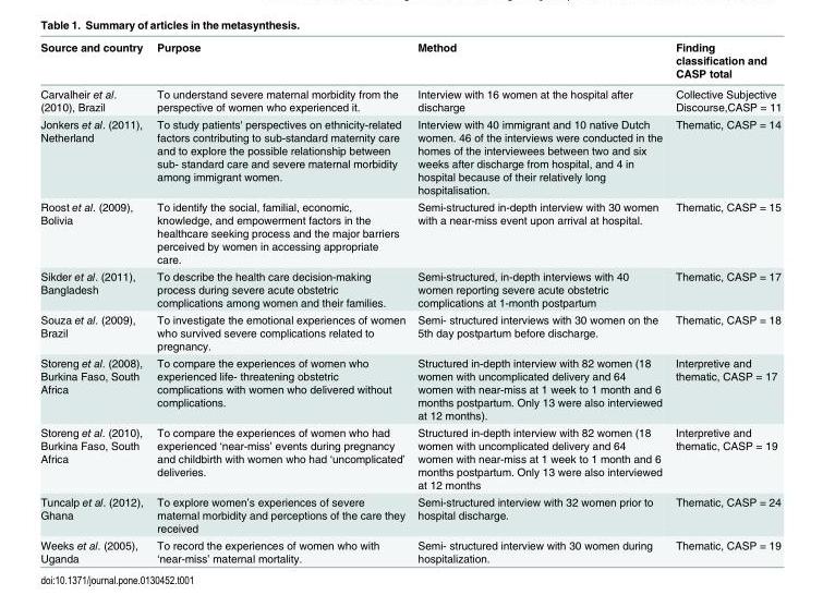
<table><thead><tr><td>Source and country</td><td>Purpose</td><td>Method</td><td>Finding classification and CASP total</td></tr></thead><tbody><tr><td>Carvalheir et al. (2010), Brazil</td><td>To understand severe maternal morbidity from the perspective of women who experienced it.</td><td>Interview with 16 women at the hospital after discharge</td><td>Collective Subjective Discourse,CASP = 11</td></tr><tr><td>Jonkers et al. (2011), Netherland</td><td>To study patients&#x27; perspectives on ethnicity-related factors contributing to sub-standard maternity care and to explore the possible relationship between sub- standard care and severe maternal morbidity among immigrant women.</td><td>Interview with 40 immigrant and 10 native Dutch women. 46 of the interviews were conducted in the homes of the interviewees between two and six weeks after discharge from hospital, and 4 in hospital because of their relatively long hospitalisation.</td><td>Thematic, CASP = 14</td></tr><tr><td>Roost et al. (2009), Bolivia</td><td>To identify the social, familial, economic, knowledge, and empowerment factors in the healthcare seeking process and the major barriers perceived by women in accessing appropriate care.</td><td>Semi-structured in-depth interview with 30 women with a near-miss event upon arrival at hospital.</td><td>Thematic, CASP = 15</td></tr><tr><td>Sikder et al. (2011), Bangladesh</td><td>To describe the health care decision-making process during severe acute obstetric complications among women and their families.</td><td>Semi-structured, in-depth interviews with 40 women reporting severe acute obstetric complications at 1-month postpartum</td><td>Thematic, CASP = 17</td></tr><tr><td>Souza et al. (2009), Brazil</td><td>To investigate the emotional experiences of women who survived severe complications related to pregnancy.</td><td>Semi- structured interviews with 30 women on the 5th day postpartum before discharge.</td><td>Thematic, CASP = 18</td></tr><tr><td>Storeng et al. (2008), Burkina Faso, South Africa</td><td>To compare the experiences of women who experienced life- threatening obstetric complications with women who delivered without complications.</td><td>Structured in-depth interview with 82 women (18 women with uncomplicated delivery and 64 women with near-miss at 1 week to 1 month and 6 months postpartum. Only 13 were also interviewed at 12 months).</td><td>Interpretive and thematic, CASP = 17</td></tr><tr><td>Storeng et al. (2010), Burkina Faso, South Africa</td><td>To compare the experiences of women who had experienced ‘near-miss’ events during pregnancy and childbirth with women who had ‘uncomplicated’ deliveries.</td><td>Structured in-depth interview with 82 women (18 women with uncomplicated delivery and 64 women with near-miss at 1 week to 1 month and 6 months postpartum. Only 13 were also interviewed at 12 months</td><td>Interpretive and thematic, CASP = 19</td></tr><tr><td>Tuncalp et al. (2012), Ghana</td><td>To explore women’s experiences of severe maternal morbidity and perceptions of the care they received</td><td>Semi-structured interview with 32 women prior to hospital discharge.</td><td>Thematic, CASP = 24</td></tr><tr><td>Weeks et al. (2005), Uganda</td><td>To record the experiences of women who with ‘near-miss’ maternal mortality.</td><td>Semi- structured interview with 30 women during hospitalization.</td><td>Thematic, CASP = 19</td></tr></tbody></table>